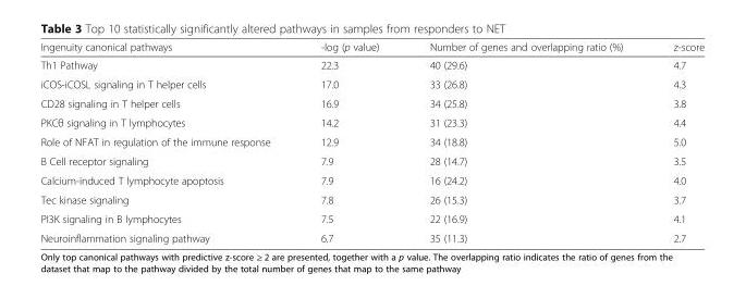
<table><thead><tr><td>Ingenuity canonical pathways</td><td>-log (p value)</td><td>Number of genes and overlapping ratio (%)</td><td>z-score</td></tr></thead><tbody><tr><td>Th1 Pathway</td><td>22.3</td><td>40 (29.6)</td><td>4.7</td></tr><tr><td>iCOS-iCOSL signaling in T helper cells</td><td>17.0</td><td>33 (26.8)</td><td>4.3</td></tr><tr><td>CD28 signaling in T helper cells</td><td>16.9</td><td>34 (25.8)</td><td>3.8</td></tr><tr><td>PKCθ signaling in T lymphocytes</td><td>14.2</td><td>31 (23.3)</td><td>4.4</td></tr><tr><td>Role of NFAT in regulation of the immune response</td><td>12.9</td><td>34 (18.8)</td><td>5.0</td></tr><tr><td>B Cell receptor signaling</td><td>7.9</td><td>28 (14.7)</td><td>3.5</td></tr><tr><td>Calcium-induced T lymphocyte apoptosis</td><td>7.9</td><td>16 (24.2)</td><td>4.0</td></tr><tr><td>Tec kinase signaling</td><td>7.8</td><td>26 (15.3)</td><td>3.7</td></tr><tr><td>PI3K signaling in B lymphocytes</td><td>7.5</td><td>22 (16.9)</td><td>4.1</td></tr><tr><td>Neuroinflammation signaling pathway</td><td>6.7</td><td>35 (11.3)</td><td>2.7</td></tr></tbody></table>